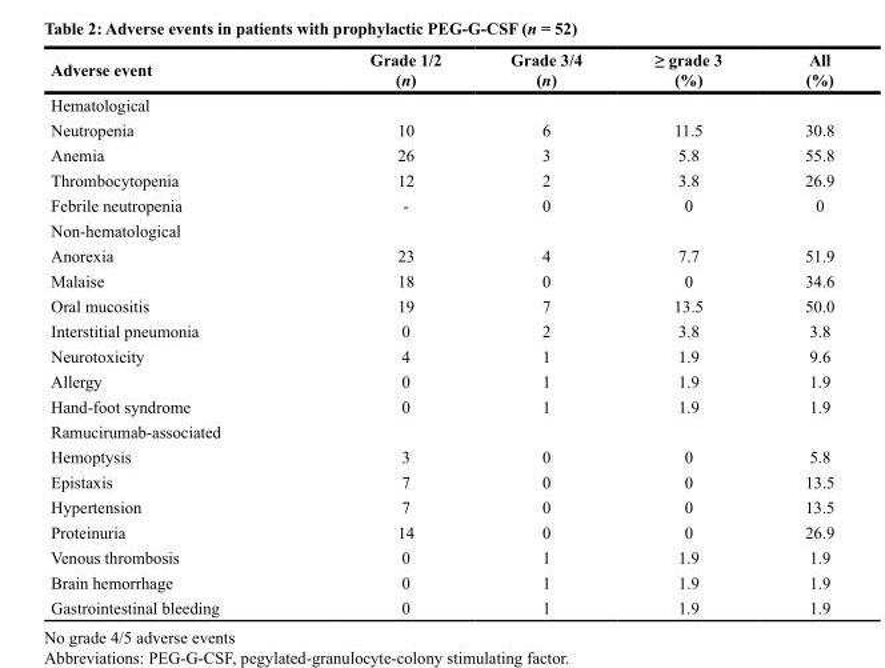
<table><thead><tr><td>Adverse event</td><td>Grade 1/2 (n)</td><td>Grade 3/4 (n)</td><td>≥ grade 3 (%)</td><td>All (%)</td></tr></thead><tbody><tr><td colspan="5">Hematological</td></tr><tr><td>Neutropenia</td><td>10</td><td>6</td><td>11.5</td><td>30.8</td></tr><tr><td>Anemia</td><td>26</td><td>3</td><td>5.8</td><td>55.8</td></tr><tr><td>Thrombocytopenia</td><td>12</td><td>2</td><td>3.8</td><td>26.9</td></tr><tr><td>Febrile neutropenia</td><td>-</td><td>0</td><td>0</td><td>0</td></tr><tr><td colspan="5">Non-hematological</td></tr><tr><td>Anorexia</td><td>23</td><td>4</td><td>7.7</td><td>51.9</td></tr><tr><td>Malaise</td><td>18</td><td>0</td><td>0</td><td>34.6</td></tr><tr><td>Oral mucositis</td><td>19</td><td>7</td><td>13.5</td><td>50.0</td></tr><tr><td>Interstitial pneumonia</td><td>0</td><td>2</td><td>3.8</td><td>3.8</td></tr><tr><td>Neurotoxicity</td><td>4</td><td>1</td><td>1.9</td><td>9.6</td></tr><tr><td>Allergy</td><td>0</td><td>1</td><td>1.9</td><td>1.9</td></tr><tr><td>Hand-foot syndrome</td><td>0</td><td>1</td><td>1.9</td><td>1.9</td></tr><tr><td colspan="5">Ramucirumab-associated</td></tr><tr><td>Hemoptysis</td><td>3</td><td>0</td><td>0</td><td>5.8</td></tr><tr><td>Epistaxis</td><td>7</td><td>0</td><td>0</td><td>13.5</td></tr><tr><td>Hypertension</td><td>7</td><td>0</td><td>0</td><td>13.5</td></tr><tr><td>Proteinuria</td><td>14</td><td>0</td><td>0</td><td>26.9</td></tr><tr><td>Venous thrombosis</td><td>0</td><td>1</td><td>1.9</td><td>1.9</td></tr><tr><td>Brain hemorrhage</td><td>0</td><td>1</td><td>1.9</td><td>1.9</td></tr><tr><td>Gastrointestinal bleeding</td><td>0</td><td>1</td><td>1.9</td><td>1.9</td></tr></tbody></table>